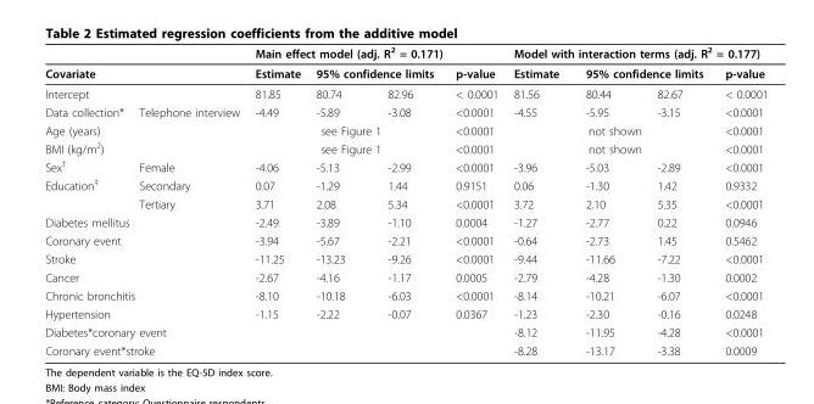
<table><thead><tr><td></td><td></td><td colspan="4">Main effect model (adj. R2 = 0.171)</td><td colspan="4">Model with interaction terms (adj. R2 = 0.177)</td></tr><tr><td rowspan="2" colspan="2">Covariate Intercept</td><td rowspan="2">Estimate 81.85</td><td colspan="2">95% confidence limits</td><td rowspan="2">p-value &lt; 0.0001</td><td rowspan="2">Estimate 81.56</td><td colspan="2">95% confidence limits</td><td rowspan="2">p-value &lt; 0.0001</td></tr><tr><td>80.74</td><td>82.96</td><td>80.44</td><td>82.67</td></tr></thead><tbody><tr><td>Data collection*</td><td>Telephone interview</td><td>-4.49</td><td>-5.89</td><td>-3.08</td><td>&lt;0.0001</td><td>-4.55</td><td>-5.95</td><td>-3.15</td><td>&lt;0.0001</td></tr><tr><td colspan="2">Age (years)</td><td colspan="3">see Figure 1</td><td>&lt;0.0001</td><td colspan="3">not shown</td><td>&lt;0.0001</td></tr><tr><td colspan="2">BMI (kg/m<sup>2</sup>)</td><td colspan="3">see Figure 1</td><td>&lt;0.0001</td><td colspan="3">not shown</td><td>&lt;0.0001</td></tr><tr><td>Sex<sup>†</sup></td><td>Female</td><td>-4.06</td><td>-5.13</td><td>-2.99</td><td>&lt;0.0001</td><td>-3.96</td><td>-5.03</td><td>-2.89</td><td>&lt;0.0001</td></tr><tr><td rowspan="2">Education<sup>‡</sup></td><td>Secondary</td><td>0.07</td><td>-1.29</td><td>1.44</td><td>0.9151</td><td>0.06</td><td>-1.30</td><td>1.42</td><td>0.9332</td></tr><tr><td>Tertiary</td><td>3.71</td><td>2.08</td><td>5.34</td><td>&lt;0.0001</td><td>3.72</td><td>2.10</td><td>5.35</td><td>&lt;0.0001</td></tr><tr><td colspan="2">Diabetes mellitus</td><td>-2.49</td><td>-3.89</td><td>-1.10</td><td>0.0004</td><td>-1.27</td><td>-2.77</td><td>0.22</td><td>0.0946</td></tr><tr><td colspan="2">Coronary event</td><td>-3.94</td><td>-5.67</td><td>-2.21</td><td>&lt;0.0001</td><td>-0.64</td><td>-2.73</td><td>1.45</td><td>0.5462</td></tr><tr><td colspan="2">Stroke</td><td>-11.25</td><td>-13.23</td><td>-9.26</td><td>&lt;0.0001</td><td>-9.44</td><td>-11.66</td><td>-7.22</td><td>&lt;0.0001</td></tr><tr><td colspan="2">Cancer</td><td>-2.67</td><td>-4.16</td><td>-1.17</td><td>0.0005</td><td>-2.79</td><td>-4.28</td><td>-1.30</td><td>0.0002</td></tr><tr><td colspan="2">Chronic bronchitis</td><td>-8.10</td><td>-10.18</td><td>-6.03</td><td>&lt;0.0001</td><td>-8.14</td><td>-10.21</td><td>-6.07</td><td>&lt;0.0001</td></tr><tr><td colspan="2">Hypertension</td><td>-1.15</td><td>-2.22</td><td>-0.07</td><td>0.0367</td><td>-1.23</td><td>-2.30</td><td>-0.16</td><td>0.0248</td></tr><tr><td colspan="2">Diabetes*coronary event</td><td></td><td></td><td></td><td></td><td>-8.12</td><td>-11.95</td><td>-4.28</td><td>&lt;0.0001</td></tr><tr><td colspan="2">Coronary event*stroke</td><td></td><td></td><td></td><td></td><td>-8.28</td><td>-13.17</td><td>-3.38</td><td>0.0009</td></tr></tbody></table>